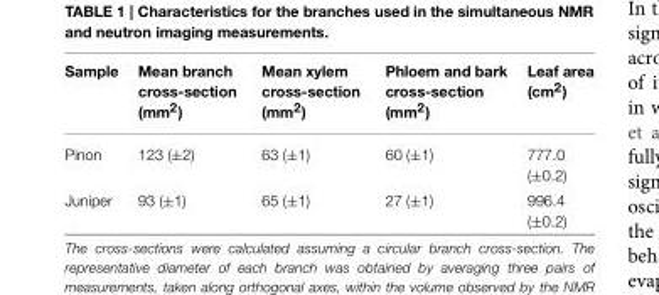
<table><thead><tr><td>Sample</td><td>Mean branch cross-section (mm<sup>2</sup>)</td><td>Mean xylem cross-section (mm<sup>2</sup>)</td><td>Phloem and bark cross-section (mm<sup>2</sup>)</td><td>Leaf area (cm<sup>2</sup>)</td></tr></thead><tbody><tr><td>Pinon</td><td>123 (±2)</td><td>63 (±1)</td><td>60 (±1)</td><td>777.0 (±0.2)</td></tr><tr><td>Juniper</td><td>93 (±1)</td><td>65 (±1)</td><td>27 (±1)</td><td>996.4 (±0.2)</td></tr></tbody></table>